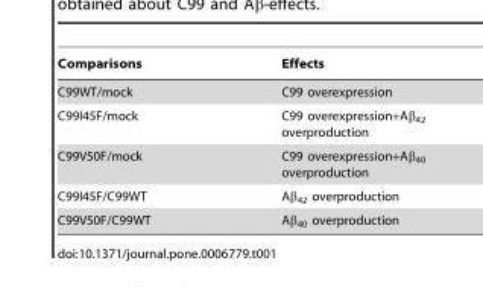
<table><thead><tr><td>Comparisons</td><td>Effects</td></tr></thead><tbody><tr><td>C99WT/mock</td><td>C99 overexpression</td></tr><tr><td>C99I45F/mock</td><td>C99 overexpression+Aβ<sub>42</sub> overproduction</td></tr><tr><td>C99V50F/mock</td><td>C99 overexpression+Aβ<sub>40</sub> overproduction</td></tr><tr><td>C99I45F/C99WT</td><td>Aβ<sub>42</sub> overproduction</td></tr><tr><td>C99V50F/C99WT</td><td>Aβ<sub>40</sub> overproduction</td></tr></tbody></table>